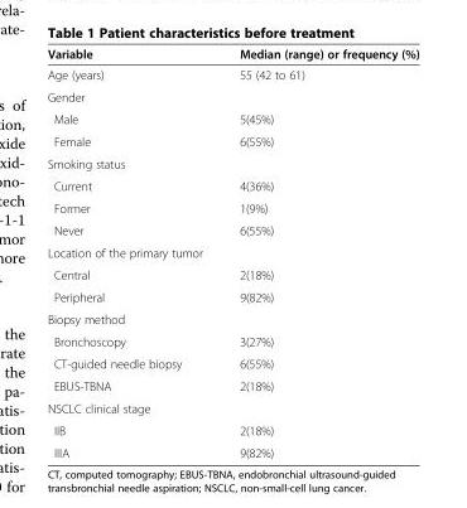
<table><thead><tr><td>Variable</td><td>Median (range) or frequency (%)</td></tr></thead><tbody><tr><td>Age (years)</td><td>55 (42 to 61)</td></tr><tr><td colspan="2">Gender</td></tr><tr><td>Male</td><td>5(45%)</td></tr><tr><td>Female</td><td>6(55%)</td></tr><tr><td colspan="2">Smoking status</td></tr><tr><td>Current</td><td>4(36%)</td></tr><tr><td>Former</td><td>1(9%)</td></tr><tr><td>Never</td><td>6(55%)</td></tr><tr><td colspan="2">Location of the primary tumor</td></tr><tr><td>Central</td><td>2(18%)</td></tr><tr><td>Peripheral</td><td>9(82%)</td></tr><tr><td colspan="2">Biopsy method</td></tr><tr><td>Bronchoscopy</td><td>3(27%)</td></tr><tr><td>CT-guided needle biopsy</td><td>6(55%)</td></tr><tr><td>EBUS-TBNA</td><td>2(18%)</td></tr><tr><td colspan="2">NSCLC clinical stage</td></tr><tr><td>IIB</td><td>2(18%)</td></tr><tr><td>IIIA</td><td>9(82%)</td></tr></tbody></table>